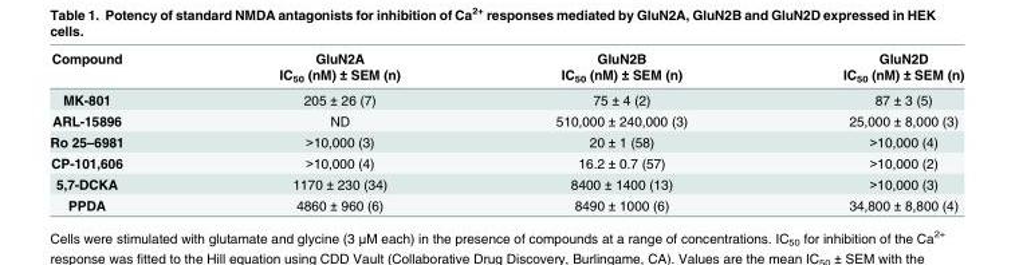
<table><thead><tr><td rowspan="2">Compound</td><td rowspan="2">GluN2A IC<sub>50</sub> (nM) ± SEM (n)</td><td rowspan="2">GluN2B IC<sub>50</sub> (nM) ± SEM (n)</td><td rowspan="2">GluN2D IC<sub>50</sub> (nM) ± SEM (n)</td></tr><tr></tr></thead><tbody><tr><td>MK-801</td><td>205 ± 26 (7)</td><td>75 ± 4 (2)</td><td>87 ± 3 (5)</td></tr><tr><td>ARL-15896</td><td>ND</td><td>510,000 ± 240,000 (3)</td><td>25,000 ± 8,000 (3)</td></tr><tr><td>Ro 25–6981</td><td>&gt;10,000 (3)</td><td>20 ± 1 (58)</td><td>&gt;10,000 (4)</td></tr><tr><td>CP-101,606</td><td>&gt;10,000 (4)</td><td>16.2 ± 0.7 (57)</td><td>&gt;10,000 (2)</td></tr><tr><td>5,7-DCKA</td><td>1170 ± 230 (34)</td><td>8400 ± 1400 (13)</td><td>&gt;10,000 (3)</td></tr><tr><td>PPDA</td><td>4860 ± 960 (6)</td><td>8490 ± 1000 (6)</td><td>34,800 ± 8,800 (4)</td></tr></tbody></table>